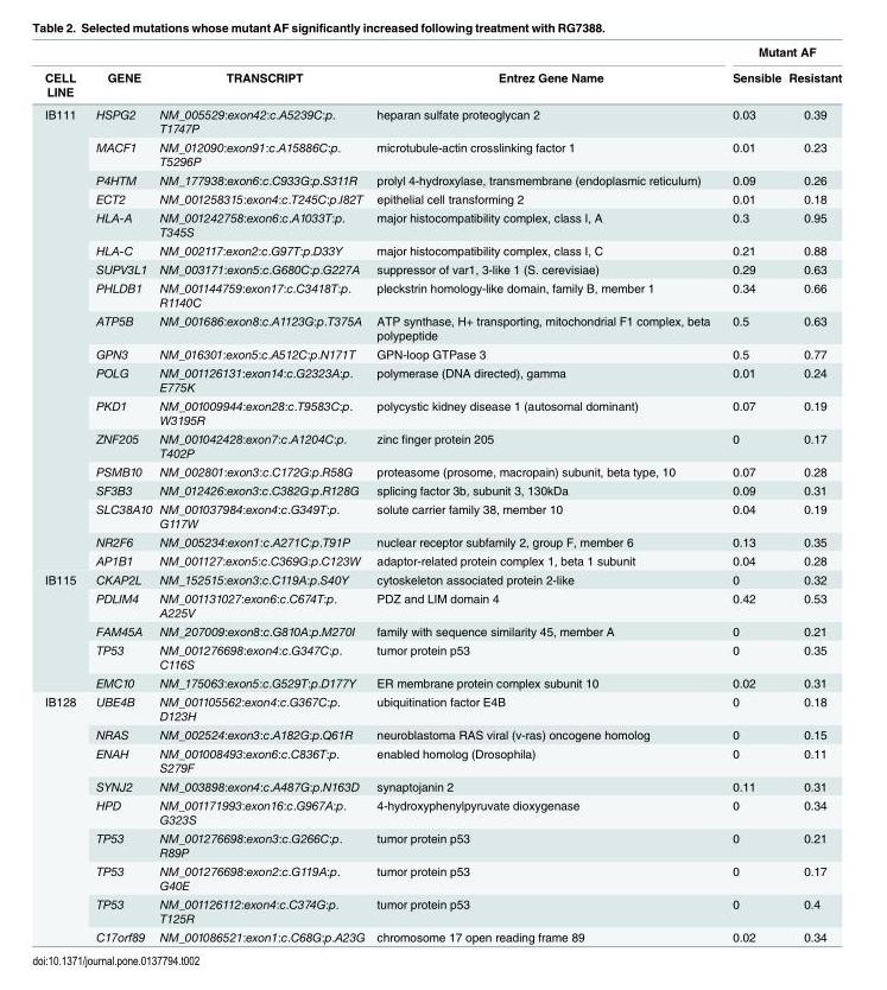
<table><thead><tr><td rowspan="2">CELL LINE</td><td rowspan="2">GENE</td><td rowspan="2">TRANSCRIPT</td><td rowspan="2">Entrez Gene Name</td><td colspan="2">Mutant AF</td></tr><tr><td>Sensible</td><td>Resistant</td></tr></thead><tbody><tr><td rowspan="18">IB111</td><td>HSPG2</td><td>NM_005529:exon42:c.A5239C:p. T1747P</td><td>heparan sulfate proteoglycan 2</td><td>0.03</td><td>0.39</td></tr><tr><td>MACF1</td><td>NM_012090:exon91:c.A15886C:p. T5296P</td><td>microtubule-actin crosslinking factor 1</td><td>0.01</td><td>0.23</td></tr><tr><td>P4HTM</td><td>NM_177938:exon6:c.C933G:p.S311R</td><td>prolyl 4-hydroxylase, transmembrane (endoplasmic reticulum)</td><td>0.09</td><td>0.26</td></tr><tr><td>ECT2</td><td>NM_001258315:exon4:c.T245C:p.I82T</td><td>epithelial cell transforming 2</td><td>0.01</td><td>0.18</td></tr><tr><td>HLA-A</td><td>NM_001242758:exon6:c.A1033T:p. T345S</td><td>major histocompatibility complex, class I, A</td><td>0.3</td><td>0.95</td></tr><tr><td>HLA-C</td><td>NM_002117:exon2:c.G97T:p.D33Y</td><td>major histocompatibility complex, class I, C</td><td>0.21</td><td>0.88</td></tr><tr><td>SUPV3L1</td><td>NM_003171:exon5:c.G680C:p.G227A</td><td>suppressor of var1, 3-like 1 (S. cerevisiae)</td><td>0.29</td><td>0.63</td></tr><tr><td>PHLDB1</td><td>NM_001144759:exon17:c.C3418T:p. R1140C</td><td>pleckstrin homology-like domain, family B, member 1</td><td>0.34</td><td>0.66</td></tr><tr><td>ATP5B</td><td>NM_001686:exon8:c.A1123G:p.T375A</td><td>ATP synthase, H+ transporting, mitochondrial F1 complex, beta polypeptide</td><td>0.5</td><td>0.63</td></tr><tr><td>GPN3</td><td>NM_016301:exon5:c.A512C:p.N171T</td><td>GPN-loop GTPase 3</td><td>0.5</td><td>0.77</td></tr><tr><td>POLG</td><td>NM_001126131:exon14:c.G2323A:p. E775K</td><td>polymerase (DNA directed), gamma</td><td>0.01</td><td>0.24</td></tr><tr><td>PKD1</td><td>NM_001009944:exon28:c.T9583C:p. W3195R</td><td>polycystic kidney disease 1 (autosomal dominant)</td><td>0.07</td><td>0.19</td></tr><tr><td>ZNF205</td><td>NM_001042428:exon7:c.A1204C:p. T402P</td><td>zinc finger protein 205</td><td>0</td><td>0.17</td></tr><tr><td>PSMB10</td><td>NM_002801:exon3:c.C172G:p.R58G</td><td>proteasome (prosome, macropain) subunit, beta type, 10</td><td>0.07</td><td>0.28</td></tr><tr><td>SF3B3</td><td>NM_012426:exon3:c.C382G:p.R128G</td><td>splicing factor 3b, subunit 3, 130kDa</td><td>0.09</td><td>0.31</td></tr><tr><td>SLC38A10</td><td>NM_001037984:exon4:c.G349T:p. G117W</td><td>solute carrier family 38, member 10</td><td>0.04</td><td>0.19</td></tr><tr><td>NR2F6</td><td>NM_005234:exon1:c.A271C:p.T91P</td><td>nuclear receptor subfamily 2, group F, member 6</td><td>0.13</td><td>0.35</td></tr><tr><td>AP1B1</td><td>NM_001127:exon5:c.C369G:p.C123W</td><td>adaptor-related protein complex 1, beta 1 subunit</td><td>0.04</td><td>0.28</td></tr><tr><td rowspan="5">IB115</td><td>CKAP2L</td><td>NM_152515:exon3:c.C119A:p.S40Y</td><td>cytoskeleton associated protein 2-like</td><td>0</td><td>0.32</td></tr><tr><td>PDLIM4</td><td>NM_001131027:exon6:c.C674T:p. A225V</td><td>PDZ and LIM domain 4</td><td>0.42</td><td>0.53</td></tr><tr><td>FAM45A</td><td>NM_207009:exon8:c.G810A:p.M270I</td><td>family with sequence similarity 45, member A</td><td>0</td><td>0.21</td></tr><tr><td>TP53</td><td>NM_001276698:exon4:c.G347C:p. C116S</td><td>tumor protein p53</td><td>0</td><td>0.35</td></tr><tr><td>EMC10</td><td>NM_175063:exon5:c.G529T:p.D177Y</td><td>ER membrane protein complex subunit 10</td><td>0.02</td><td>0.31</td></tr><tr><td rowspan="9">IB128</td><td>UBE4B</td><td>NM_001105562:exon4:c.G367C:p. D123H</td><td>ubiquitination factor E4B</td><td>0</td><td>0.18</td></tr><tr><td>NRAS</td><td>NM_002524:exon3:c.A182G:p.Q61R</td><td>neuroblastoma RAS viral (v-ras) oncogene homolog</td><td>0</td><td>0.15</td></tr><tr><td>ENAH</td><td>NM_001008493:exon6:c.C836T:p. S279F</td><td>enabled homolog (Drosophila)</td><td>0</td><td>0.11</td></tr><tr><td>SYNJ2</td><td>NM_003898:exon4:c.A487G:p.N163D</td><td>synaptojanin 2</td><td>0.11</td><td>0.31</td></tr><tr><td>HPD</td><td>NM_001171993:exon16:c.G967A:p. G323S</td><td>4-hydroxyphenylpyruvate dioxygenase</td><td>0</td><td>0.34</td></tr><tr><td>TP53</td><td>NM_001276698:exon3:c.G266C:p. R89P</td><td>tumor protein p53</td><td>0</td><td>0.21</td></tr><tr><td>TP53</td><td>NM_001276698:exon2:c.G119A:p. G40E</td><td>tumor protein p53</td><td>0</td><td>0.17</td></tr><tr><td>TP53</td><td>NM_001126112:exon4:c.C374G:p. T125R</td><td>tumor protein p53</td><td>0</td><td>0.4</td></tr><tr><td>C17orf89</td><td>NM_001086521:exon1:c.C68G:p.A23G</td><td>chromosome 17 open reading frame 89</td><td>0.02</td><td>0.34</td></tr></tbody></table>